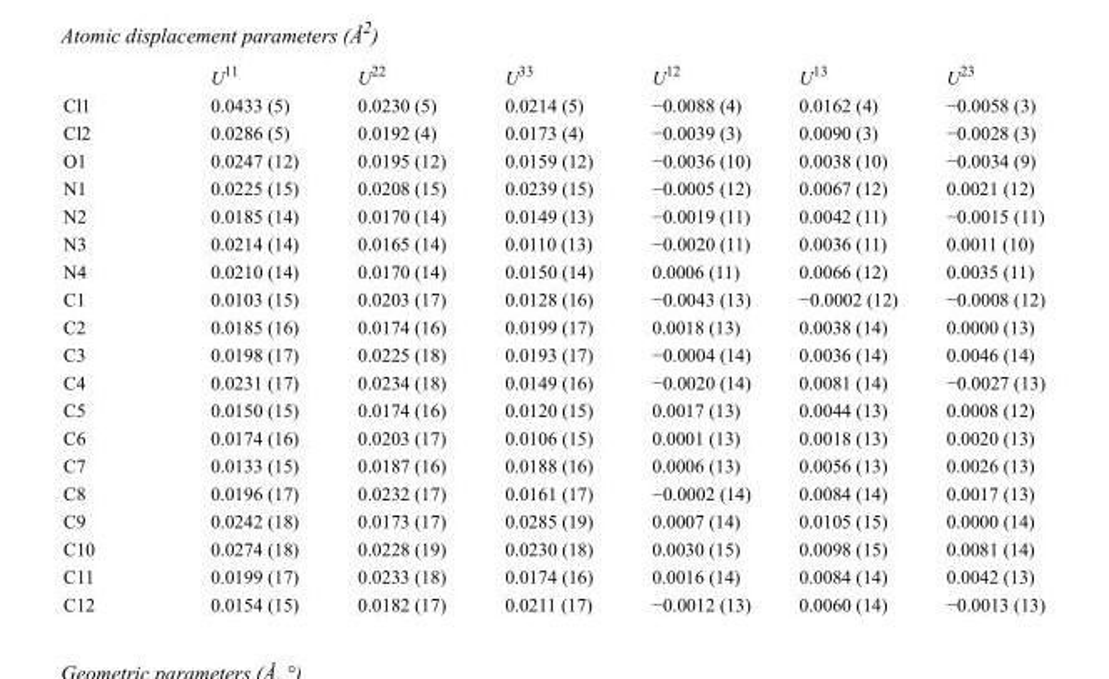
<table><thead><tr><td></td><td>U<sup>11</sup></td><td>U<sup>22</sup></td><td>U<sup>33</sup></td><td>U<sup>12</sup></td><td>U<sup>13</sup></td><td>U<sup>23</sup></td></tr></thead><tbody><tr><td>Cl1</td><td>0.0433 (5)</td><td>0.0230 (5)</td><td>0.0214 (5)</td><td>−0.0088 (4)</td><td>0.0162 (4)</td><td>−0.0058 (3)</td></tr><tr><td>Cl2</td><td>0.0286 (5)</td><td>0.0192 (4)</td><td>0.0173 (4)</td><td>−0.0039 (3)</td><td>0.0090 (3)</td><td>−0.0028 (3)</td></tr><tr><td>O1</td><td>0.0247 (12)</td><td>0.0195 (12)</td><td>0.0159 (12)</td><td>−0.0036 (10)</td><td>0.0038 (10)</td><td>−0.0034 (9)</td></tr><tr><td>N1</td><td>0.0225 (15)</td><td>0.0208 (15)</td><td>0.0239 (15)</td><td>−0.0005 (12)</td><td>0.0067 (12)</td><td>0.0021 (12)</td></tr><tr><td>N2</td><td>0.0185 (14)</td><td>0.0170 (14)</td><td>0.0149 (13)</td><td>−0.0019 (11)</td><td>0.0042 (11)</td><td>−0.0015 (11)</td></tr><tr><td>N3</td><td>0.0214 (14)</td><td>0.0165 (14)</td><td>0.0110 (13)</td><td>−0.0020 (11)</td><td>0.0036 (11)</td><td>0.0011 (10)</td></tr><tr><td>N4</td><td>0.0210 (14)</td><td>0.0170 (14)</td><td>0.0150 (14)</td><td>0.0006 (11)</td><td>0.0066 (12)</td><td>0.0035 (11)</td></tr><tr><td>C1</td><td>0.0103 (15)</td><td>0.0203 (17)</td><td>0.0128 (16)</td><td>−0.0043 (13)</td><td>−0.0002 (12)</td><td>−0.0008 (12)</td></tr><tr><td>C2</td><td>0.0185 (16)</td><td>0.0174 (16)</td><td>0.0199 (17)</td><td>0.0018 (13)</td><td>0.0038 (14)</td><td>0.0000 (13)</td></tr><tr><td>C3</td><td>0.0198 (17)</td><td>0.0225 (18)</td><td>0.0193 (17)</td><td>−0.0004 (14)</td><td>0.0036 (14)</td><td>0.0046 (14)</td></tr><tr><td>C4</td><td>0.0231 (17)</td><td>0.0234 (18)</td><td>0.0149 (16)</td><td>−0.0020 (14)</td><td>0.0081 (14)</td><td>−0.0027 (13)</td></tr><tr><td>C5</td><td>0.0150 (15)</td><td>0.0174 (16)</td><td>0.0120 (15)</td><td>0.0017 (13)</td><td>0.0044 (13)</td><td>0.0008 (12)</td></tr><tr><td>C6</td><td>0.0174 (16)</td><td>0.0203 (17)</td><td>0.0106 (15)</td><td>0.0001 (13)</td><td>0.0018 (13)</td><td>0.0020 (13)</td></tr><tr><td>C7</td><td>0.0133 (15)</td><td>0.0187 (16)</td><td>0.0188 (16)</td><td>0.0006 (13)</td><td>0.0056 (13)</td><td>0.0026 (13)</td></tr><tr><td>C8</td><td>0.0196 (17)</td><td>0.0232 (17)</td><td>0.0161 (17)</td><td>−0.0002 (14)</td><td>0.0084 (14)</td><td>0.0017 (13)</td></tr><tr><td>C9</td><td>0.0242 (18)</td><td>0.0173 (17)</td><td>0.0285 (19)</td><td>0.0007 (14)</td><td>0.0105 (15)</td><td>0.0000 (14)</td></tr><tr><td>C10</td><td>0.0274 (18)</td><td>0.0228 (19)</td><td>0.0230 (18)</td><td>0.0030 (15)</td><td>0.0098 (15)</td><td>0.0081 (14)</td></tr><tr><td>C11</td><td>0.0199 (17)</td><td>0.0233 (18)</td><td>0.0174 (16)</td><td>0.0016 (14)</td><td>0.0084 (14)</td><td>0.0042 (13)</td></tr><tr><td>C12</td><td>0.0154 (15)</td><td>0.0182 (17)</td><td>0.0211 (17)</td><td>−0.0012 (13)</td><td>0.0060 (14)</td><td>−0.0013 (13)</td></tr></tbody></table>